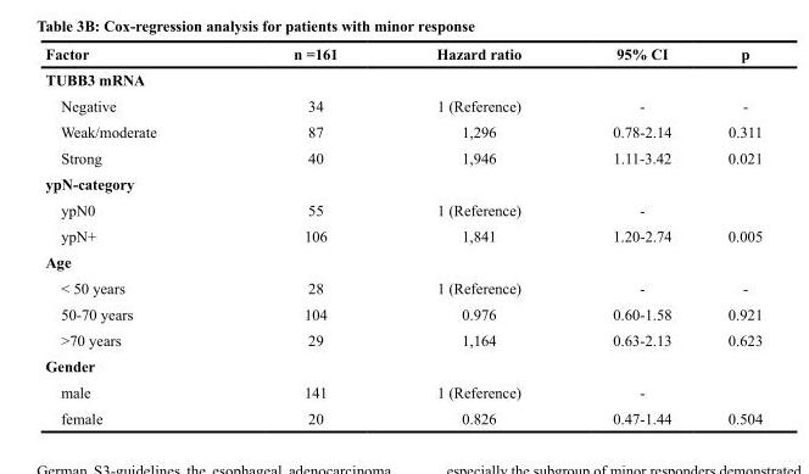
<table><thead><tr><td>Factor</td><td>n =161</td><td>Hazard ratio</td><td>95% CI</td><td>p</td></tr></thead><tbody><tr><td colspan="5">TUBB3 mRNA</td></tr><tr><td>Negative</td><td>34</td><td>1 (Reference)</td><td>-</td><td>-</td></tr><tr><td>Weak/moderate</td><td>87</td><td>1,296</td><td>0.78-2.14</td><td>0.311</td></tr><tr><td>Strong</td><td>40</td><td>1,946</td><td>1.11-3.42</td><td>0.021</td></tr><tr><td colspan="5">ypN-category</td></tr><tr><td>ypN0</td><td>55</td><td>1 (Reference)</td><td>-</td><td></td></tr><tr><td>ypN+</td><td>106</td><td>1,841</td><td>1.20-2.74</td><td>0.005</td></tr><tr><td colspan="5">Age</td></tr><tr><td>&lt; 50 years</td><td>28</td><td>1 (Reference)</td><td>-</td><td>-</td></tr><tr><td>50-70 years</td><td>104</td><td>0.976</td><td>0.60-1.58</td><td>0.921</td></tr><tr><td>&gt;70 years</td><td>29</td><td>1,164</td><td>0.63-2.13</td><td>0.623</td></tr><tr><td colspan="5">Gender</td></tr><tr><td>male</td><td>141</td><td>1 (Reference)</td><td>-</td><td></td></tr><tr><td>female</td><td>20</td><td>0.826</td><td>0.47-1.44</td><td>0.504</td></tr></tbody></table>